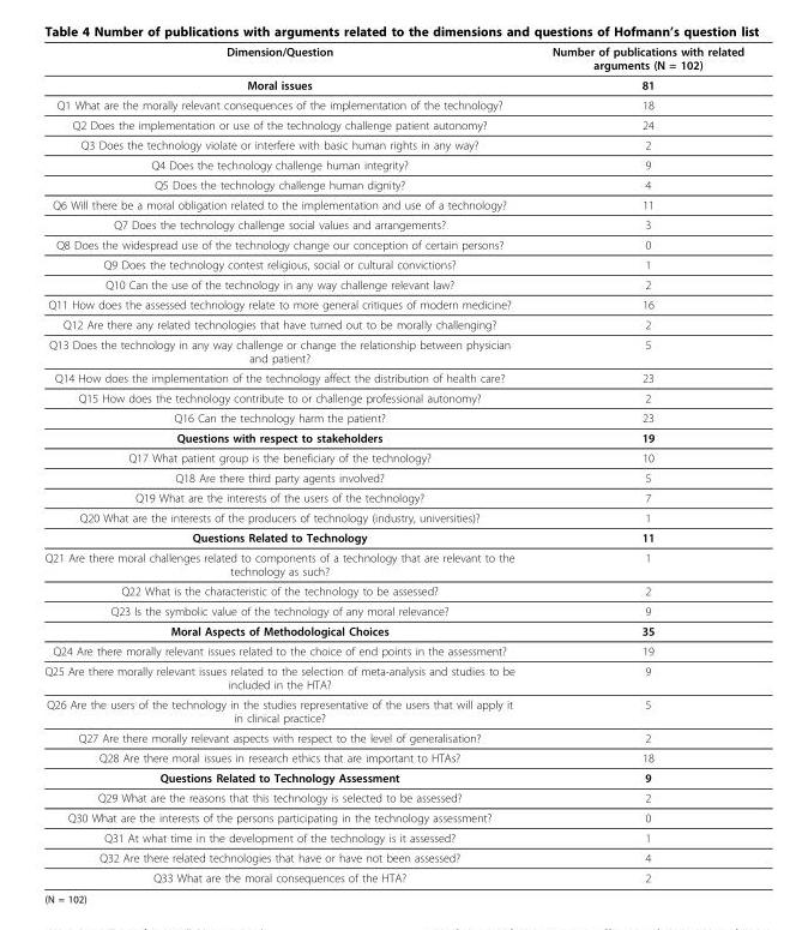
<table><thead><tr><td>Dimension/Question</td><td>Number of publications with related arguments (N = 102)</td></tr></thead><tbody><tr><td>Moral issues</td><td>81</td></tr><tr><td>Q1 What are the morally relevant consequences of the implementation of the technology?</td><td>18</td></tr><tr><td>Q2 Does the implementation or use of the technology challenge patient autonomy?</td><td>24</td></tr><tr><td>Q3 Does the technology violate or interfere with basic human rights in any way?</td><td>2</td></tr><tr><td>Q4 Does the technology challenge human integrity?</td><td>9</td></tr><tr><td>Q5 Does the technology challenge human dignity?</td><td>4</td></tr><tr><td>Q6 Will there be a moral obligation related to the implementation and use of a technology?</td><td>11</td></tr><tr><td>Q7 Does the technology challenge social values and arrangements?</td><td>3</td></tr><tr><td>Q8 Does the widespread use of the technology change our conception of certain persons?</td><td>0</td></tr><tr><td>Q9 Does the technology contest religious, social or cultural convictions?</td><td>1</td></tr><tr><td>Q10 Can the use of the technology in any way challenge relevant law?</td><td>2</td></tr><tr><td>Q11 How does the assessed technology relate to more general critiques of modern medicine?</td><td>16</td></tr><tr><td>Q12 Are there any related technologies that have turned out to be morally challenging?</td><td>2</td></tr><tr><td>Q13 Does the technology in any way challenge or change the relationship between physician and patient?</td><td>5</td></tr><tr><td>Q14 How does the implementation of the technology affect the distribution of health care?</td><td>23</td></tr><tr><td>Q15 How does the technology contribute to or challenge professional autonomy?</td><td>2</td></tr><tr><td>Q16 Can the technology harm the patient?</td><td>23</td></tr><tr><td>Questions with respect to stakeholders</td><td>19</td></tr><tr><td>Q17 What patient group is the beneficiary of the technology?</td><td>10</td></tr><tr><td>Q18 Are there third party agents involved?</td><td>5</td></tr><tr><td>Q19 What are the interests of the users of the technology?</td><td>7</td></tr><tr><td>Q20 What are the interests of the producers of technology (industry, universities)?</td><td>1</td></tr><tr><td>Questions Related to Technology</td><td>11</td></tr><tr><td>Q21 Are there moral challenges related to components of a technology that are relevant to the technology as such?</td><td>1</td></tr><tr><td>Q22 What is the characteristic of the technology to be assessed?</td><td>2</td></tr><tr><td>Q23 Is the symbolic value of the technology of any moral relevance?</td><td>9</td></tr><tr><td>Moral Aspects of Methodological Choices</td><td>35</td></tr><tr><td>Q24 Are there morally relevant issues related to the choice of end points in the assessment?</td><td>19</td></tr><tr><td>Q25 Are there morally relevant issues related to the selection of meta-analysis and studies to be included in the HTA?</td><td>9</td></tr><tr><td>Q26 Are the users of the technology in the studies representative of the users that will apply it in clinical practice?</td><td>5</td></tr><tr><td>Q27 Are there morally relevant aspects with respect to the level of generalisation?</td><td>2</td></tr><tr><td>Q28 Are there moral issues in research ethics that are important to HTAs?</td><td>18</td></tr><tr><td>Questions Related to Technology Assessment</td><td>9</td></tr><tr><td>Q29 What are the reasons that this technology is selected to be assessed?</td><td>2</td></tr><tr><td>Q30 What are the interests of the persons participating in the technology assessment?</td><td>0</td></tr><tr><td>Q31 At what time in the development of the technology is it assessed?</td><td>1</td></tr><tr><td>Q32 Are there related technologies that have or have not been assessed?</td><td>4</td></tr><tr><td>Q33 What are the moral consequences of the HTA?</td><td>2</td></tr></tbody></table>